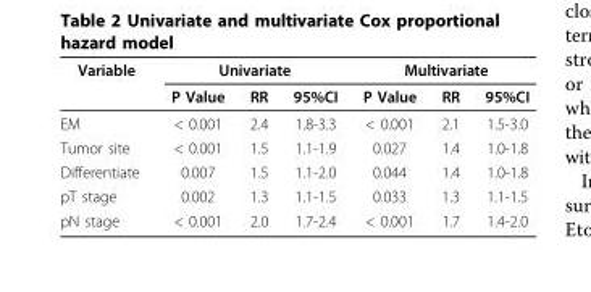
<table><thead><tr><td rowspan="2">Variable</td><td colspan="3">Univariate</td><td colspan="3">Multivariate</td></tr><tr><td>P Value</td><td>RR</td><td>95%CI</td><td>P Value</td><td>RR</td><td>95%CI</td></tr></thead><tbody><tr><td>EM</td><td>&lt; 0.001</td><td>2.4</td><td>1.8-3.3</td><td>&lt; 0.001</td><td>2.1</td><td>1.5-3.0</td></tr><tr><td>Tumor site</td><td>&lt; 0.001</td><td>1.5</td><td>1.1-1.9</td><td>0.027</td><td>1.4</td><td>1.0-1.8</td></tr><tr><td>Differentiate</td><td>0.007</td><td>1.5</td><td>1.1-2.0</td><td>0.044</td><td>1.4</td><td>1.0-1.8</td></tr><tr><td>pT stage</td><td>0.002</td><td>1.3</td><td>1.1-1.5</td><td>0.033</td><td>1.3</td><td>1.1-1.5</td></tr><tr><td>pN stage</td><td>&lt; 0.001</td><td>2.0</td><td>1.7-2.4</td><td>&lt; 0.001</td><td>1.7</td><td>1.4-2.0</td></tr></tbody></table>